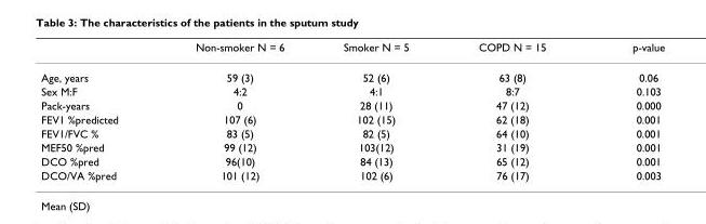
<table><thead><tr><td></td><td>Non-smoker N = 6</td><td>Smoker N = 5</td><td>COPD N = 15</td><td>p-value</td></tr></thead><tbody><tr><td>Age, years</td><td>59 (3)</td><td>52 (6)</td><td>63 (8)</td><td>0.06</td></tr><tr><td>Sex M:F</td><td>4:2</td><td>4:1</td><td>8:7</td><td>0.103</td></tr><tr><td>Pack-years</td><td>0</td><td>28 (11)</td><td>47 (12)</td><td>0.000</td></tr><tr><td>FEV1 %predicted</td><td>107 (6)</td><td>102 (15)</td><td>62 (18)</td><td>0.001</td></tr><tr><td>FEV1/FVC %</td><td>83 (5)</td><td>82 (5)</td><td>64 (10)</td><td>0.001</td></tr><tr><td>MEF50 %pred</td><td>99 (12)</td><td>103(12)</td><td>31 (19)</td><td>0.001</td></tr><tr><td>DCO %pred</td><td>96(10)</td><td>84 (13)</td><td>65 (12)</td><td>0.001</td></tr><tr><td>DCO/VA %pred</td><td>101 (12)</td><td>102 (6)</td><td>76 (17)</td><td>0.003</td></tr></tbody></table>